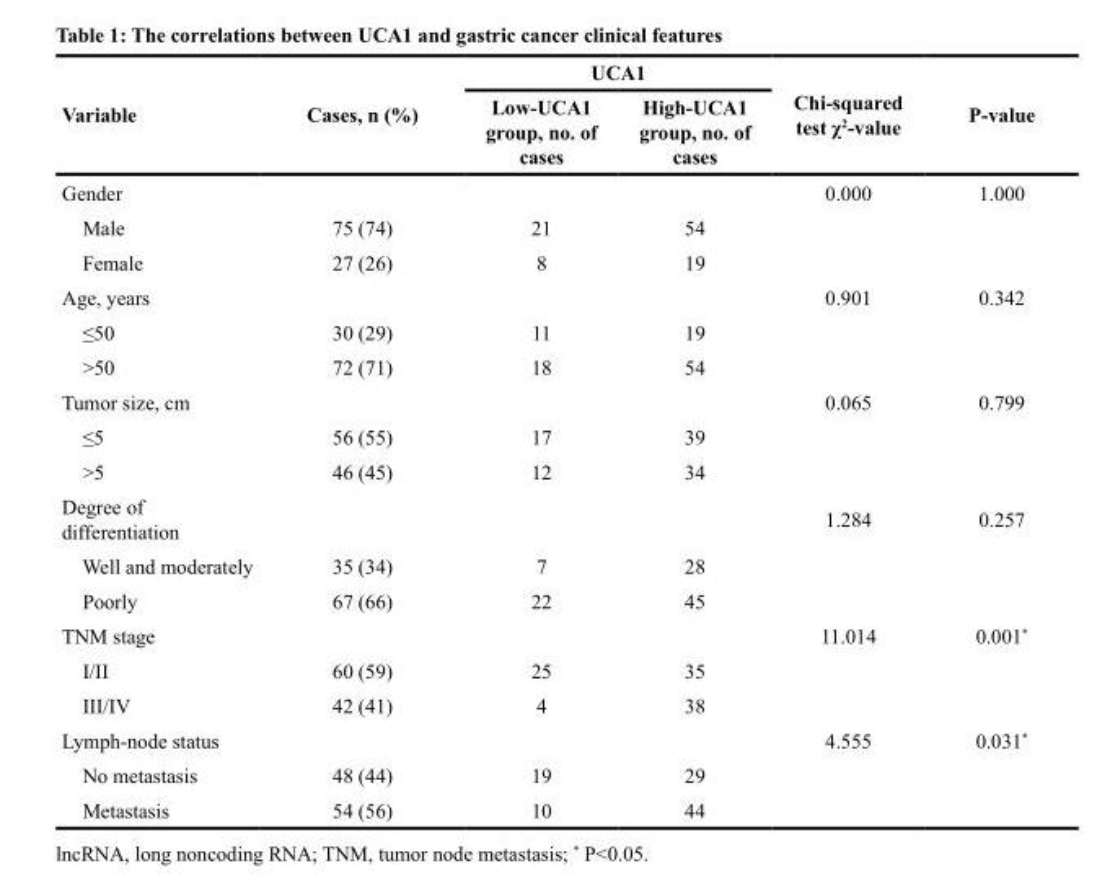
<table><thead><tr><td rowspan="2">Variable</td><td rowspan="2">Cases, n (%)</td><td colspan="2">UCA1</td><td rowspan="2">Chi-squared test χ<sup>2</sup>-value</td><td rowspan="2">P-value</td></tr><tr><td>Low-UCA1 group, no. of cases</td><td>High-UCA1 group, no. of cases</td></tr></thead><tbody><tr><td>Gender</td><td></td><td></td><td></td><td>0.000</td><td>1.000</td></tr><tr><td>Male</td><td>75 (74)</td><td>21</td><td>54</td><td></td><td></td></tr><tr><td>Female</td><td>27 (26)</td><td>8</td><td>19</td><td></td><td></td></tr><tr><td>Age, years</td><td></td><td></td><td></td><td>0.901</td><td>0.342</td></tr><tr><td>≤50</td><td>30 (29)</td><td>11</td><td>19</td><td></td><td></td></tr><tr><td>&gt;50</td><td>72 (71)</td><td>18</td><td>54</td><td></td><td></td></tr><tr><td>Tumor size, cm</td><td></td><td></td><td></td><td>0.065</td><td>0.799</td></tr><tr><td>≤5</td><td>56 (55)</td><td>17</td><td>39</td><td></td><td></td></tr><tr><td>&gt;5</td><td>46 (45)</td><td>12</td><td>34</td><td></td><td></td></tr><tr><td>Degree of differentiation</td><td></td><td></td><td></td><td>1.284</td><td>0.257</td></tr><tr><td>Well and moderately</td><td>35 (34)</td><td>7</td><td>28</td><td></td><td></td></tr><tr><td>Poorly</td><td>67 (66)</td><td>22</td><td>45</td><td></td><td></td></tr><tr><td>TNM stage</td><td></td><td></td><td></td><td>11.014</td><td>0.001*</td></tr><tr><td>I/II</td><td>60 (59)</td><td>25</td><td>35</td><td></td><td></td></tr><tr><td>III/IV</td><td>42 (41)</td><td>4</td><td>38</td><td></td><td></td></tr><tr><td>Lymph-node status</td><td></td><td></td><td></td><td>4.555</td><td>0.031*</td></tr><tr><td>No metastasis</td><td>48 (44)</td><td>19</td><td>29</td><td></td><td></td></tr><tr><td>Metastasis</td><td>54 (56)</td><td>10</td><td>44</td><td></td><td></td></tr></tbody></table>